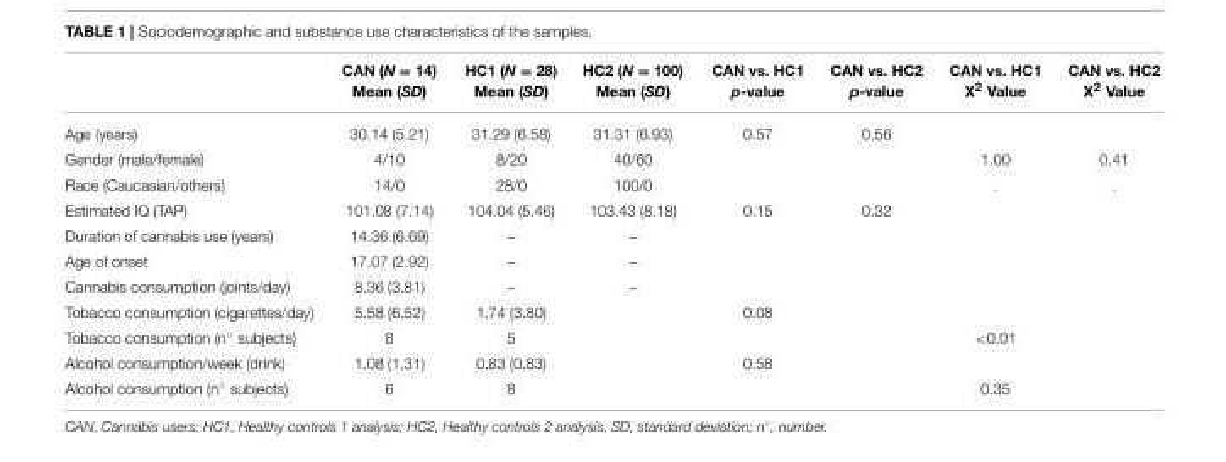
<table><thead><tr><td></td><td>CAN (N = 14) Mean (SD)</td><td>HC1 (N = 28) Mean (SD)</td><td>HC2 (N = 100) Mean (SD)</td><td>CAN vs. HC1 p-value</td><td>CAN vs. HC2 p-value</td><td>CAN vs. HC1 X<sup>2</sup> Value</td><td>CAN vs. HC2 X<sup>2</sup> Value</td></tr></thead><tbody><tr><td>Age (years)</td><td>30.14 (5.21)</td><td>31.29 (6.58)</td><td>31.31 (6.93)</td><td>0.57</td><td>0.56</td><td></td><td></td></tr><tr><td>Gender (male/female)</td><td>4/10</td><td>8/20</td><td>40/60</td><td></td><td></td><td>1.00</td><td>0.41</td></tr><tr><td>Race (Caucasian/others)</td><td>14/0</td><td>28/0</td><td>100/0</td><td></td><td></td><td>.</td><td>.</td></tr><tr><td>Estimated IQ (TAP)</td><td>101.08 (7.14)</td><td>104.04 (5.46)</td><td>103.43 (8.18)</td><td>0.15</td><td>0.32</td><td></td><td></td></tr><tr><td>Duration of cannabis use (years)</td><td>14.36 (6.69)</td><td>–</td><td>–</td><td></td><td></td><td></td><td></td></tr><tr><td>Age of onset</td><td>17.07 (2.92)</td><td>–</td><td>–</td><td></td><td></td><td></td><td></td></tr><tr><td>Cannabis consumption (joints/day)</td><td>8.36 (3.81)</td><td>–</td><td>–</td><td></td><td></td><td></td><td></td></tr><tr><td>Tobacco consumption (cigarettes/day)</td><td>5.58 (6.52)</td><td>1.74 (3.80)</td><td></td><td>0.08</td><td></td><td></td><td></td></tr><tr><td>Tobacco consumption (n◦ subjects)</td><td>8</td><td>5</td><td></td><td></td><td></td><td>&lt;0.01</td><td></td></tr><tr><td>Alcohol consumption/week (drink)</td><td>1.08 (1.31)</td><td>0.83 (0.83)</td><td></td><td>0.58</td><td></td><td></td><td></td></tr><tr><td>Alcohol consumption (n◦ subjects)</td><td>6</td><td>8</td><td></td><td></td><td></td><td>0.35</td><td></td></tr></tbody></table>